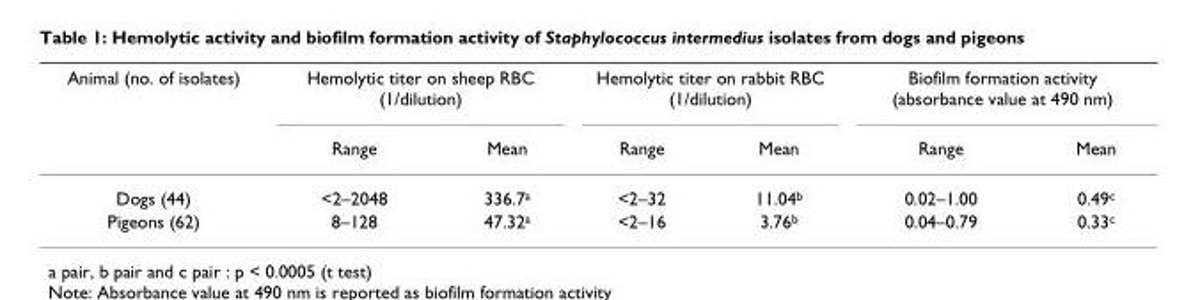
<table><thead><tr><td rowspan="2">Animal (no. of isolates)</td><td colspan="2">Hemolytic titer on sheep RBC (1/dilution)</td><td colspan="2">Hemolytic titer on rabbit RBC (1/dilution)</td><td colspan="2">Biofilm formation activity (absorbance value at 490 nm)</td></tr><tr><td>Range</td><td>Mean</td><td>Range</td><td>Mean</td><td>Range</td><td>Mean</td></tr></thead><tbody><tr><td>Dogs (44)</td><td>&lt;2–2048</td><td>336.7a</td><td>&lt;2–32</td><td>11.04b</td><td>0.02–1.00</td><td>0.49c</td></tr><tr><td>Pigeons (62)</td><td>8–128</td><td>47.32a</td><td>&lt;2–16</td><td>3.76b</td><td>0.04–0.79</td><td>0.33c</td></tr></tbody></table>